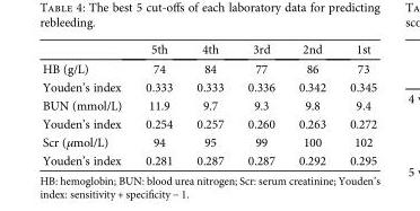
<table><thead><tr><td></td><td>5th</td><td>4th</td><td>3rd</td><td>2nd</td><td>1st</td></tr></thead><tbody><tr><td>HB (g/L)</td><td>74</td><td>84</td><td>77</td><td>86</td><td>73</td></tr><tr><td>Youden’s index</td><td>0.333</td><td>0.333</td><td>0.336</td><td>0.342</td><td>0.345</td></tr><tr><td>BUN (mmol/L)</td><td>11.9</td><td>9.7</td><td>9.3</td><td>9.8</td><td>9.4</td></tr><tr><td>Youden’s index</td><td>0.254</td><td>0.257</td><td>0.260</td><td>0.263</td><td>0.272</td></tr><tr><td>Scr (μmol/L)</td><td>94</td><td>95</td><td>99</td><td>100</td><td>102</td></tr><tr><td>Youden’s index</td><td>0.281</td><td>0.287</td><td>0.287</td><td>0.292</td><td>0.295</td></tr></tbody></table>